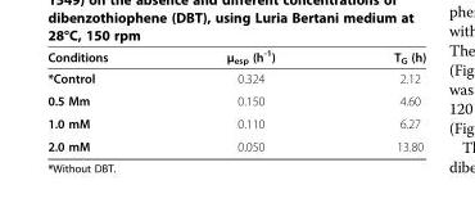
<table><thead><tr><td>Conditions</td><td>μ<sub>esp</sub> (h<sup>-1</sup>)</td><td>T<sub>G</sub> (h)</td></tr></thead><tbody><tr><td>*Control</td><td>0.324</td><td>2.12</td></tr><tr><td>0.5 Mm</td><td>0.150</td><td>4.60</td></tr><tr><td>1.0 mM</td><td>0.110</td><td>6.27</td></tr><tr><td>2.0 mM</td><td>0.050</td><td>13.80</td></tr></tbody></table>